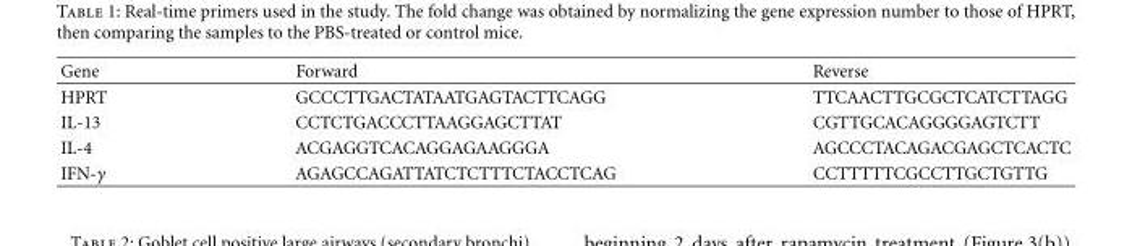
<table><thead><tr><td>Gene</td><td>Forward</td><td>Reverse</td></tr></thead><tbody><tr><td>HPRT</td><td>GCCCTTGACTATAATGAGTACTTCAGG</td><td>TTCAACTTGCGCTCATCTTAGG</td></tr><tr><td>IL-13</td><td>CCTCTGACCCTTAAGGAGCTTAT</td><td>CGTTGCACAGGGGAGTCTT</td></tr><tr><td>IL-4</td><td>ACGAGGTCACAGGAGAAGGGA</td><td>AGCCCTACAGACGAGCTCACTC</td></tr><tr><td>IFN-γ</td><td>AGAGCCAGATTATCTCTTTCTACCTCAG</td><td>CCTTTTTCGCCTTGCTGTTG</td></tr></tbody></table>